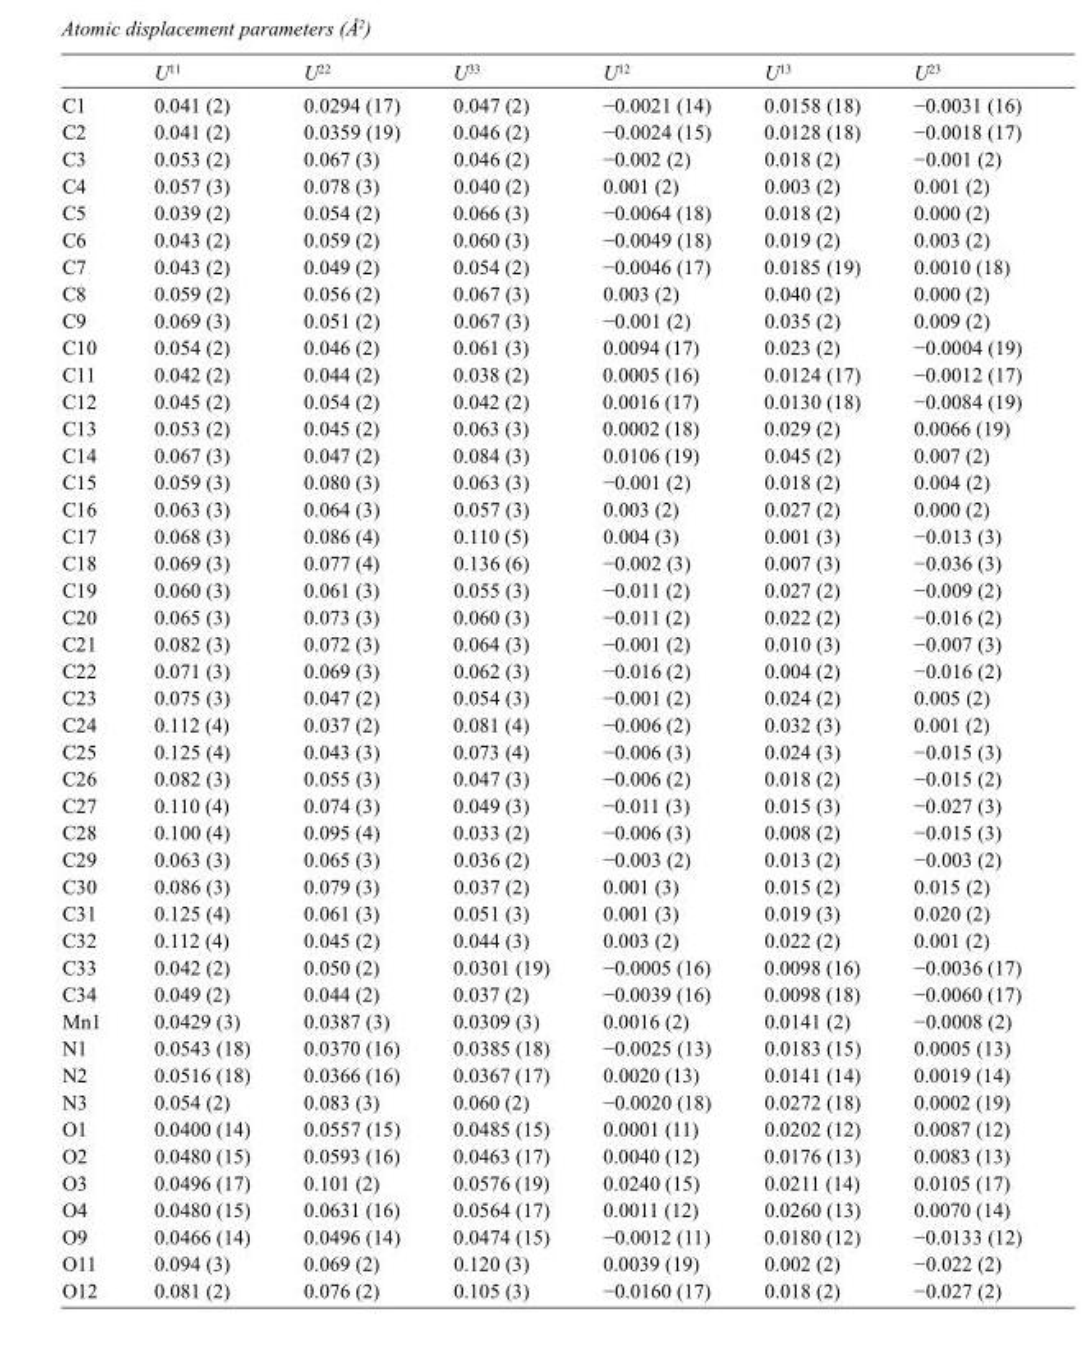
<table><thead><tr><td></td><td>U<sup>11</sup></td><td>U<sup>22</sup></td><td>U<sup>33</sup></td><td>U<sup>12</sup></td><td>U<sup>13</sup></td><td>U<sup>23</sup></td></tr></thead><tbody><tr><td>C1</td><td>0.041 (2)</td><td>0.0294 (17)</td><td>0.047 (2)</td><td>−0.0021 (14)</td><td>0.0158 (18)</td><td>−0.0031 (16)</td></tr><tr><td>C2</td><td>0.041 (2)</td><td>0.0359 (19)</td><td>0.046 (2)</td><td>−0.0024 (15)</td><td>0.0128 (18)</td><td>−0.0018 (17)</td></tr><tr><td>C3</td><td>0.053 (2)</td><td>0.067 (3)</td><td>0.046 (2)</td><td>−0.002 (2)</td><td>0.018 (2)</td><td>−0.001 (2)</td></tr><tr><td>C4</td><td>0.057 (3)</td><td>0.078 (3)</td><td>0.040 (2)</td><td>0.001 (2)</td><td>0.003 (2)</td><td>0.001 (2)</td></tr><tr><td>C5</td><td>0.039 (2)</td><td>0.054 (2)</td><td>0.066 (3)</td><td>−0.0064 (18)</td><td>0.018 (2)</td><td>0.000 (2)</td></tr><tr><td>C6</td><td>0.043 (2)</td><td>0.059 (2)</td><td>0.060 (3)</td><td>−0.0049 (18)</td><td>0.019 (2)</td><td>0.003 (2)</td></tr><tr><td>C7</td><td>0.043 (2)</td><td>0.049 (2)</td><td>0.054 (2)</td><td>−0.0046 (17)</td><td>0.0185 (19)</td><td>0.0010 (18)</td></tr><tr><td>C8</td><td>0.059 (2)</td><td>0.056 (2)</td><td>0.067 (3)</td><td>0.003 (2)</td><td>0.040 (2)</td><td>0.000 (2)</td></tr><tr><td>C9</td><td>0.069 (3)</td><td>0.051 (2)</td><td>0.067 (3)</td><td>−0.001 (2)</td><td>0.035 (2)</td><td>0.009 (2)</td></tr><tr><td>C10</td><td>0.054 (2)</td><td>0.046 (2)</td><td>0.061 (3)</td><td>0.0094 (17)</td><td>0.023 (2)</td><td>−0.0004 (19)</td></tr><tr><td>C11</td><td>0.042 (2)</td><td>0.044 (2)</td><td>0.038 (2)</td><td>0.0005 (16)</td><td>0.0124 (17)</td><td>−0.0012 (17)</td></tr><tr><td>C12</td><td>0.045 (2)</td><td>0.054 (2)</td><td>0.042 (2)</td><td>0.0016 (17)</td><td>0.0130 (18)</td><td>−0.0084 (19)</td></tr><tr><td>C13</td><td>0.053 (2)</td><td>0.045 (2)</td><td>0.063 (3)</td><td>0.0002 (18)</td><td>0.029 (2)</td><td>0.0066 (19)</td></tr><tr><td>C14</td><td>0.067 (3)</td><td>0.047 (2)</td><td>0.084 (3)</td><td>0.0106 (19)</td><td>0.045 (2)</td><td>0.007 (2)</td></tr><tr><td>C15</td><td>0.059 (3)</td><td>0.080 (3)</td><td>0.063 (3)</td><td>−0.001 (2)</td><td>0.018 (2)</td><td>0.004 (2)</td></tr><tr><td>C16</td><td>0.063 (3)</td><td>0.064 (3)</td><td>0.057 (3)</td><td>0.003 (2)</td><td>0.027 (2)</td><td>0.000 (2)</td></tr><tr><td>C17</td><td>0.068 (3)</td><td>0.086 (4)</td><td>0.110 (5)</td><td>0.004 (3)</td><td>0.001 (3)</td><td>−0.013 (3)</td></tr><tr><td>C18</td><td>0.069 (3)</td><td>0.077 (4)</td><td>0.136 (6)</td><td>−0.002 (3)</td><td>0.007 (3)</td><td>−0.036 (3)</td></tr><tr><td>C19</td><td>0.060 (3)</td><td>0.061 (3)</td><td>0.055 (3)</td><td>−0.011 (2)</td><td>0.027 (2)</td><td>−0.009 (2)</td></tr><tr><td>C20</td><td>0.065 (3)</td><td>0.073 (3)</td><td>0.060 (3)</td><td>−0.011 (2)</td><td>0.022 (2)</td><td>−0.016 (2)</td></tr><tr><td>C21</td><td>0.082 (3)</td><td>0.072 (3)</td><td>0.064 (3)</td><td>−0.001 (2)</td><td>0.010 (3)</td><td>−0.007 (3)</td></tr><tr><td>C22</td><td>0.071 (3)</td><td>0.069 (3)</td><td>0.062 (3)</td><td>−0.016 (2)</td><td>0.004 (2)</td><td>−0.016 (2)</td></tr><tr><td>C23</td><td>0.075 (3)</td><td>0.047 (2)</td><td>0.054 (3)</td><td>−0.001 (2)</td><td>0.024 (2)</td><td>0.005 (2)</td></tr><tr><td>C24</td><td>0.112 (4)</td><td>0.037 (2)</td><td>0.081 (4)</td><td>−0.006 (2)</td><td>0.032 (3)</td><td>0.001 (2)</td></tr><tr><td>C25</td><td>0.125 (4)</td><td>0.043 (3)</td><td>0.073 (4)</td><td>−0.006 (3)</td><td>0.024 (3)</td><td>−0.015 (3)</td></tr><tr><td>C26</td><td>0.082 (3)</td><td>0.055 (3)</td><td>0.047 (3)</td><td>−0.006 (2)</td><td>0.018 (2)</td><td>−0.015 (2)</td></tr><tr><td>C27</td><td>0.110 (4)</td><td>0.074 (3)</td><td>0.049 (3)</td><td>−0.011 (3)</td><td>0.015 (3)</td><td>−0.027 (3)</td></tr><tr><td>C28</td><td>0.100 (4)</td><td>0.095 (4)</td><td>0.033 (2)</td><td>−0.006 (3)</td><td>0.008 (2)</td><td>−0.015 (3)</td></tr><tr><td>C29</td><td>0.063 (3)</td><td>0.065 (3)</td><td>0.036 (2)</td><td>−0.003 (2)</td><td>0.013 (2)</td><td>−0.003 (2)</td></tr><tr><td>C30</td><td>0.086 (3)</td><td>0.079 (3)</td><td>0.037 (2)</td><td>0.001 (3)</td><td>0.015 (2)</td><td>0.015 (2)</td></tr><tr><td>C31</td><td>0.125 (4)</td><td>0.061 (3)</td><td>0.051 (3)</td><td>0.001 (3)</td><td>0.019 (3)</td><td>0.020 (2)</td></tr><tr><td>C32</td><td>0.112 (4)</td><td>0.045 (2)</td><td>0.044 (3)</td><td>0.003 (2)</td><td>0.022 (2)</td><td>0.001 (2)</td></tr><tr><td>C33</td><td>0.042 (2)</td><td>0.050 (2)</td><td>0.0301 (19)</td><td>−0.0005 (16)</td><td>0.0098 (16)</td><td>−0.0036 (17)</td></tr><tr><td>C34</td><td>0.049 (2)</td><td>0.044 (2)</td><td>0.037 (2)</td><td>−0.0039 (16)</td><td>0.0098 (18)</td><td>−0.0060 (17)</td></tr><tr><td>Mn1</td><td>0.0429 (3)</td><td>0.0387 (3)</td><td>0.0309 (3)</td><td>0.0016 (2)</td><td>0.0141 (2)</td><td>−0.0008 (2)</td></tr><tr><td>N1</td><td>0.0543 (18)</td><td>0.0370 (16)</td><td>0.0385 (18)</td><td>−0.0025 (13)</td><td>0.0183 (15)</td><td>0.0005 (13)</td></tr><tr><td>N2</td><td>0.0516 (18)</td><td>0.0366 (16)</td><td>0.0367 (17)</td><td>0.0020 (13)</td><td>0.0141 (14)</td><td>0.0019 (14)</td></tr><tr><td>N3</td><td>0.054 (2)</td><td>0.083 (3)</td><td>0.060 (2)</td><td>−0.0020 (18)</td><td>0.0272 (18)</td><td>0.0002 (19)</td></tr><tr><td>O1</td><td>0.0400 (14)</td><td>0.0557 (15)</td><td>0.0485 (15)</td><td>0.0001 (11)</td><td>0.0202 (12)</td><td>0.0087 (12)</td></tr><tr><td>O2</td><td>0.0480 (15)</td><td>0.0593 (16)</td><td>0.0463 (17)</td><td>0.0040 (12)</td><td>0.0176 (13)</td><td>0.0083 (13)</td></tr><tr><td>O3</td><td>0.0496 (17)</td><td>0.101 (2)</td><td>0.0576 (19)</td><td>0.0240 (15)</td><td>0.0211 (14)</td><td>0.0105 (17)</td></tr><tr><td>O4</td><td>0.0480 (15)</td><td>0.0631 (16)</td><td>0.0564 (17)</td><td>0.0011 (12)</td><td>0.0260 (13)</td><td>0.0070 (14)</td></tr><tr><td>O9</td><td>0.0466 (14)</td><td>0.0496 (14)</td><td>0.0474 (15)</td><td>−0.0012 (11)</td><td>0.0180 (12)</td><td>−0.0133 (12)</td></tr><tr><td>O11</td><td>0.094 (3)</td><td>0.069 (2)</td><td>0.120 (3)</td><td>0.0039 (19)</td><td>0.002 (2)</td><td>−0.022 (2)</td></tr><tr><td>O12</td><td>0.081 (2)</td><td>0.076 (2)</td><td>0.105 (3)</td><td>−0.0160 (17)</td><td>0.018 (2)</td><td>−0.027 (2)</td></tr></tbody></table>